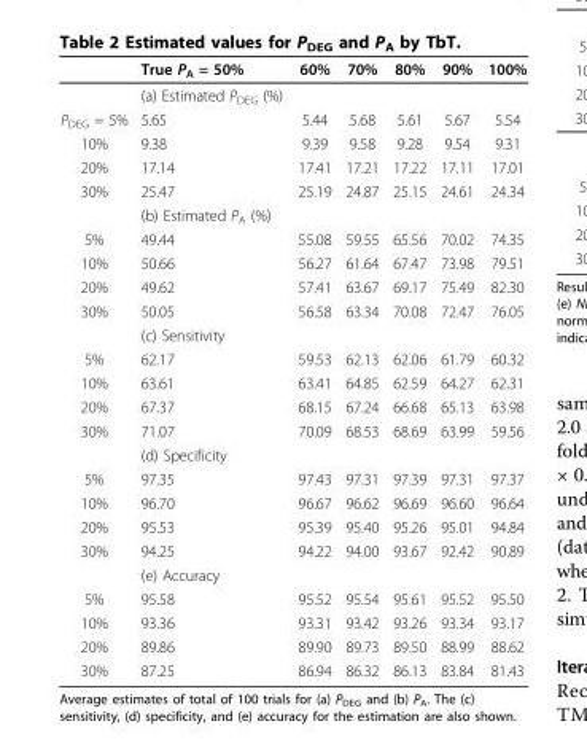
<table><thead><tr><td></td><td>True P<sub>A</sub> = 50%</td><td>60%</td><td>70%</td><td>80%</td><td>90%</td><td>100%</td></tr></thead><tbody><tr><td></td><td>(a) Estimated P<sub>DEG</sub> (%)</td><td></td><td></td><td></td><td></td><td></td></tr><tr><td>P<sub>DEG</sub> = 5%</td><td>5.65</td><td>5.44</td><td>5.68</td><td>5.61</td><td>5.67</td><td>5.54</td></tr><tr><td>10%</td><td>9.38</td><td>9.39</td><td>9.58</td><td>9.28</td><td>9.54</td><td>9.31</td></tr><tr><td>20%</td><td>17.14</td><td>17.41</td><td>17.21</td><td>17.22</td><td>17.11</td><td>17.01</td></tr><tr><td rowspan="2">30%</td><td>25.47</td><td>25.19</td><td>24.87</td><td>25.15</td><td>24.61</td><td>24.34</td></tr><tr><td>(b) Estimated P<sub>A</sub> (%)</td><td></td><td></td><td></td><td></td><td></td></tr><tr><td>5%</td><td>49.44</td><td>55.08</td><td>59.55</td><td>65.56</td><td>70.02</td><td>74.35</td></tr><tr><td>10%</td><td>50.66</td><td>56.27</td><td>61.64</td><td>67.47</td><td>73.98</td><td>79.51</td></tr><tr><td>20%</td><td>49.62</td><td>57.41</td><td>63.67</td><td>69.17</td><td>75.49</td><td>82.30</td></tr><tr><td rowspan="2">30%</td><td>50.05</td><td>56.58</td><td>63.34</td><td>70.08</td><td>72.47</td><td>76.05</td></tr><tr><td>(c) Sensitivity</td><td></td><td></td><td></td><td></td><td></td></tr><tr><td>5%</td><td>62.17</td><td>59.53</td><td>62.13</td><td>62.06</td><td>61.79</td><td>60.32</td></tr><tr><td>10%</td><td>63.61</td><td>63.41</td><td>64.85</td><td>62.59</td><td>64.27</td><td>62.31</td></tr><tr><td>20%</td><td>67.37</td><td>68.15</td><td>67.24</td><td>66.68</td><td>65.13</td><td>63.98</td></tr><tr><td rowspan="2">30%</td><td>71.07</td><td>70.09</td><td>68.53</td><td>68.69</td><td>63.99</td><td>59.56</td></tr><tr><td>(d) Specificity</td><td></td><td></td><td></td><td></td><td></td></tr><tr><td>5%</td><td>97.35</td><td>97.43</td><td>97.31</td><td>97.39</td><td>97.31</td><td>97.37</td></tr><tr><td>10%</td><td>96.70</td><td>96.67</td><td>96.62</td><td>96.69</td><td>96.60</td><td>96.64</td></tr><tr><td>20%</td><td>95.53</td><td>95.39</td><td>95.40</td><td>95.26</td><td>95.01</td><td>94.84</td></tr><tr><td rowspan="2">30%</td><td>94.25</td><td>94.22</td><td>94.00</td><td>93.67</td><td>92.42</td><td>90.89</td></tr><tr><td>(e) Accuracy</td><td></td><td></td><td></td><td></td><td></td></tr><tr><td>5%</td><td>95.58</td><td>95.52</td><td>95.54</td><td>95.61</td><td>95.52</td><td>95.50</td></tr><tr><td>10%</td><td>93.36</td><td>93.31</td><td>93.42</td><td>93.26</td><td>93.34</td><td>93.17</td></tr><tr><td>20%</td><td>89.86</td><td>89.90</td><td>89.73</td><td>89.50</td><td>88.99</td><td>88.62</td></tr><tr><td>30%</td><td>87.25</td><td>86.94</td><td>86.32</td><td>86.13</td><td>83.84</td><td>81.43</td></tr></tbody></table>